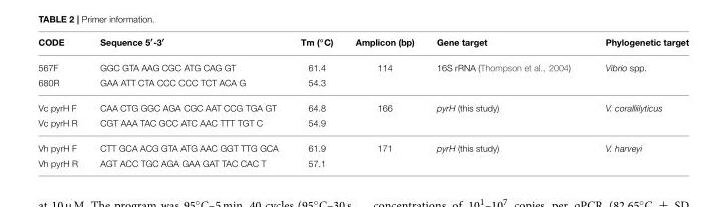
<table><thead><tr><td>CODE</td><td>Sequence 5′-3′</td><td>Tm (◦C)</td><td>Amplicon (bp)</td><td>Gene target</td><td>Phylogenetic target</td></tr></thead><tbody><tr><td>567F</td><td>GGC GTA AAG CGC ATG CAG GT</td><td>61.4</td><td>114</td><td>16S rRNA (Thompson et al., 2004)</td><td>Vibrio spp.</td></tr><tr><td>680R</td><td>GAA ATT CTA CCC CCC TCT ACA G</td><td>54.3</td><td></td><td></td><td></td></tr><tr><td>Vc pyrH F</td><td>CAA CTG GGC AGA CGC AAT CCG TGA GT</td><td>64.8</td><td>166</td><td>pyrH (this study)</td><td>V. coralliilyticus</td></tr><tr><td>Vc pyrH R</td><td>CGT AAA TAC GCC ATC AAC TTT TGT C</td><td>54.9</td><td></td><td></td><td></td></tr><tr><td>Vh pyrH F</td><td>CTT GCA ACG GTA ATG AAC GGT TTG GCA</td><td>61.9</td><td>171</td><td>pyrH (this study)</td><td>V. harveyi</td></tr><tr><td>Vh pyrH R</td><td>AGT ACC TGC AGA GAA GAT TAC CAC T</td><td>57.1</td><td></td><td></td><td></td></tr></tbody></table>